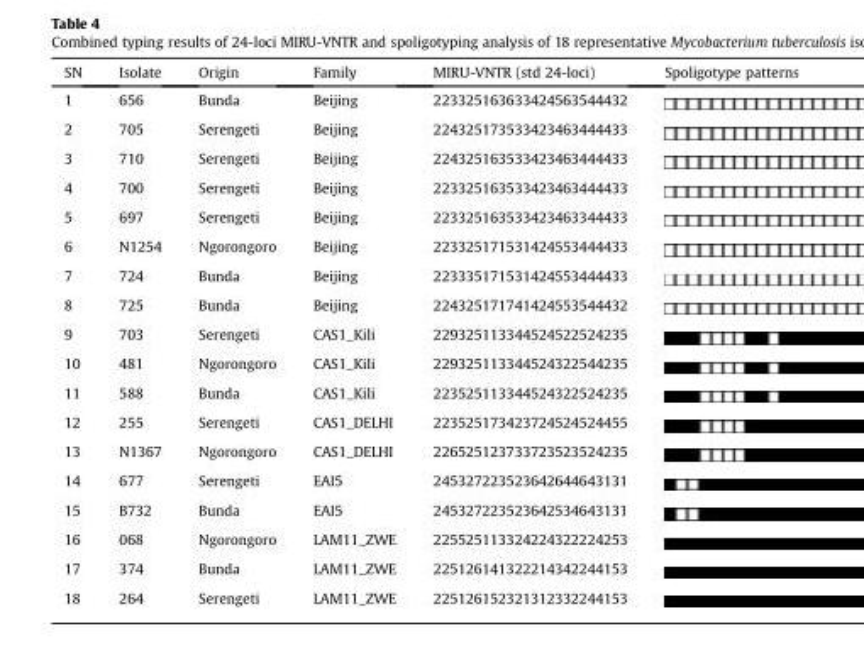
<table><thead><tr><td>SN</td><td>Isolate</td><td>Origin</td><td>Family</td><td>MIRU-VNTR (std 24-loci)</td><td>Spoligotype patterns</td></tr></thead><tbody><tr><td>1</td><td>656</td><td>Bunda</td><td>Beijing</td><td>223325163633424563544432</td><td></td></tr><tr><td>2</td><td>705</td><td>Serengeti</td><td>Beijing</td><td>224325173533423463444433</td><td></td></tr><tr><td>3</td><td>710</td><td>Serengeti</td><td>Beijing</td><td>224325163533423463444433</td><td></td></tr><tr><td>4</td><td>700</td><td>Serengeti</td><td>Beijing</td><td>223325163533423463444433</td><td></td></tr><tr><td>5</td><td>697</td><td>Serengeti</td><td>Beijing</td><td>223325163533423463344433</td><td></td></tr><tr><td>6</td><td>N1254</td><td>Ngorongoro</td><td>Beijing</td><td>223325171531424553444433</td><td></td></tr><tr><td>7</td><td>724</td><td>Bunda</td><td>Beijing</td><td>223335171531424553444433</td><td></td></tr><tr><td>8</td><td>725</td><td>Bunda</td><td>Beijing</td><td>224325171741424553544432</td><td></td></tr><tr><td>9</td><td>703</td><td>Serengeti</td><td>CAS1_Kili</td><td>229325113344524522524235</td><td></td></tr><tr><td>10</td><td>481</td><td>Ngorongoro</td><td>CAS1_Kili</td><td>229325113344524322544235</td><td></td></tr><tr><td>11</td><td>588</td><td>Bunda</td><td>CAS1_Kili</td><td>223525113344524322524235</td><td></td></tr><tr><td>12</td><td>255</td><td>Serengeti</td><td>CAS1_DELHI</td><td>223525173423724524524455</td><td></td></tr><tr><td>13</td><td>N1367</td><td>Ngorongoro</td><td>CAS1_DELHI</td><td>226525123733723523524235</td><td></td></tr><tr><td>14</td><td>677</td><td>Serengeti</td><td>EAI5</td><td>245327223523642644643131</td><td></td></tr><tr><td>15</td><td>B732</td><td>Bunda</td><td>EAI5</td><td>245327223523642534643131</td><td></td></tr><tr><td>16</td><td>068</td><td>Ngorongoro</td><td>LAM11_ZWE</td><td>225525113324224322224253</td><td></td></tr><tr><td>17</td><td>374</td><td>Bunda</td><td>LAM11_ZWE</td><td>225126141322214342244153</td><td></td></tr><tr><td>18</td><td>264</td><td>Serengeti</td><td>LAM11_ZWE</td><td>225126152321312332244153</td><td></td></tr></tbody></table>